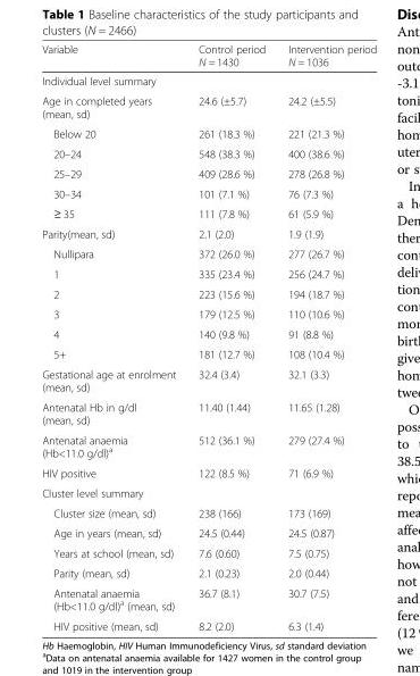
<table><thead><tr><td>Variable</td><td>Control period N = 1430</td><td>Intervention period N = 1036</td></tr></thead><tbody><tr><td colspan="3">Individual level summary</td></tr><tr><td>Age in completed years (mean, sd)</td><td>24.6 (±5.7)</td><td>24.2 (±5.5)</td></tr><tr><td>Below 20</td><td>261 (18.3 %)</td><td>221 (21.3 %)</td></tr><tr><td>20–24</td><td>548 (38.3 %)</td><td>400 (38.6 %)</td></tr><tr><td>25–29</td><td>409 (28.6 %)</td><td>278 (26.8 %)</td></tr><tr><td>30–34</td><td>101 (7.1 %)</td><td>76 (7.3 %)</td></tr><tr><td>≥ 35</td><td>111 (7.8 %)</td><td>61 (5.9 %)</td></tr><tr><td>Parity(mean, sd)</td><td>2.1 (2.0)</td><td>1.9 (1.9)</td></tr><tr><td>Nullipara</td><td>372 (26.0 %)</td><td>277 (26.7 %)</td></tr><tr><td>1</td><td>335 (23.4 %)</td><td>256 (24.7 %)</td></tr><tr><td>2</td><td>223 (15.6 %)</td><td>194 (18.7 %)</td></tr><tr><td>3</td><td>179 (12.5 %)</td><td>110 (10.6 %)</td></tr><tr><td>4</td><td>140 (9.8 %)</td><td>91 (8.8 %)</td></tr><tr><td>5+</td><td>181 (12.7 %)</td><td>108 (10.4 %)</td></tr><tr><td>Gestational age at enrolment (mean, sd)</td><td>32.4 (3.4)</td><td>32.1 (3.3)</td></tr><tr><td>Antenatal Hb in g/dl (mean, sd)</td><td>11.40 (1.44)</td><td>11.65 (1.28)</td></tr><tr><td>Antenatal anaemia (Hb&lt;11.0 g/dl)<sup>a</sup></td><td>512 (36.1 %)</td><td>279 (27.4 %)</td></tr><tr><td>HIV positive</td><td>122 (8.5 %)</td><td>71 (6.9 %)</td></tr><tr><td colspan="3">Cluster level summary</td></tr><tr><td>Cluster size (mean, sd)</td><td>238 (166)</td><td>173 (169)</td></tr><tr><td>Age in years (mean, sd)</td><td>24.5 (0.44)</td><td>24.5 (0.87)</td></tr><tr><td>Years at school (mean, sd)</td><td>7.6 (0.60)</td><td>7.5 (0.75)</td></tr><tr><td>Parity (mean, sd)</td><td>2.1 (0.23)</td><td>2.0 (0.44)</td></tr><tr><td>Antenatal anaemia (Hb&lt;11.0 g/dl)<sup>a</sup> (mean, sd)</td><td>36.7 (8.1)</td><td>30.7 (7.5)</td></tr><tr><td>HIV positive (mean, sd)</td><td>8.2 (2.0)</td><td>6.3 (1.4)</td></tr></tbody></table>